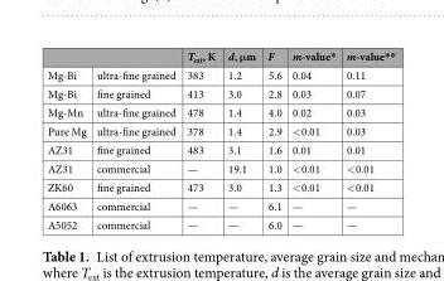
<table><thead><tr><td></td><td></td><td>T<sub>ext</sub>, K</td><td>d, μm</td><td>F</td><td>m-value*</td><td>m-value**</td></tr></thead><tbody><tr><td>Mg-Bi</td><td>ultra-fine grained</td><td>383</td><td>1.2</td><td>5.6</td><td>0.04</td><td>0.11</td></tr><tr><td>Mg-Bi</td><td>fine grained</td><td>413</td><td>3.0</td><td>2.8</td><td>0.03</td><td>0.07</td></tr><tr><td>Mg-Mn</td><td>ultra-fine grained</td><td>478</td><td>1.4</td><td>4.0</td><td>0.02</td><td>0.03</td></tr><tr><td>Pure Mg</td><td>ultra-fine grained</td><td>378</td><td>1.4</td><td>2.9</td><td>&lt;0.01</td><td>0.03</td></tr><tr><td>AZ31</td><td>fine grained</td><td>483</td><td>3.1</td><td>1.6</td><td>0.01</td><td>0.01</td></tr><tr><td>AZ31</td><td>commercial</td><td>—</td><td>19.1</td><td>1.0</td><td>&lt;0.01</td><td>&lt;0.01</td></tr><tr><td>ZK60</td><td>fine grained</td><td>473</td><td>3.0</td><td>1.3</td><td>&lt;0.01</td><td>&lt;0.01</td></tr><tr><td>A6063</td><td>commercial</td><td>—</td><td>—</td><td>6.1</td><td>—</td><td>—</td></tr><tr><td>A5052</td><td>commercial</td><td>—</td><td>—</td><td>6.0</td><td>—</td><td>—</td></tr></tbody></table>